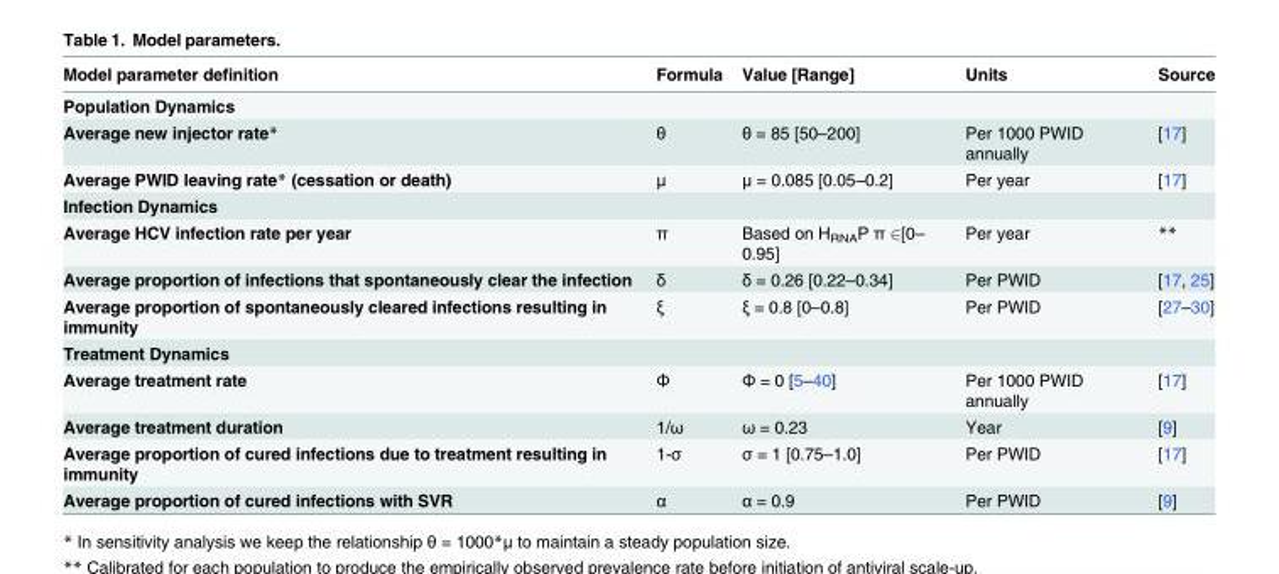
<table><thead><tr><td>Model parameter definition</td><td>Formula</td><td>Value [Range]</td><td>Units</td><td>Source</td></tr></thead><tbody><tr><td colspan="5">Population Dynamics</td></tr><tr><td>Average new injector rate*</td><td>θ</td><td>θ = 85 [50–200]</td><td>Per 1000 PWID annually</td><td>[17]</td></tr><tr><td>Average PWID leaving rate* (cessation or death)</td><td>μ</td><td>μ = 0.085 [0.05–0.2]</td><td>Per year</td><td>[17]</td></tr><tr><td colspan="5">Infection Dynamics</td></tr><tr><td>Average HCV infection rate per year</td><td>π</td><td>Based on H<sub>RNA</sub>P π ∈[0– 0.95]</td><td>Per year</td><td>**</td></tr><tr><td>Average proportion of infections that spontaneously clear the infection</td><td>δ</td><td>δ = 0.26 [0.22–0.34]</td><td>Per PWID</td><td>[17, 25]</td></tr><tr><td>Average proportion of spontaneously cleared infections resulting in immunity</td><td>ξ</td><td>ξ = 0.8 [0–0.8]</td><td>Per PWID</td><td>[27–30]</td></tr><tr><td colspan="5">Treatment Dynamics</td></tr><tr><td>Average treatment rate</td><td>Φ</td><td>Φ = 0 [5–40]</td><td>Per 1000 PWID annually</td><td>[17]</td></tr><tr><td>Average treatment duration</td><td>1/ω</td><td>ω = 0.23</td><td>Year</td><td>[9]</td></tr><tr><td>Average proportion of cured infections due to treatment resulting in immunity</td><td>1-σ</td><td>σ = 1 [0.75–1.0]</td><td>Per PWID</td><td>[17]</td></tr><tr><td>Average proportion of cured infections with SVR</td><td>α</td><td>α = 0.9</td><td>Per PWID</td><td>[9]</td></tr></tbody></table>